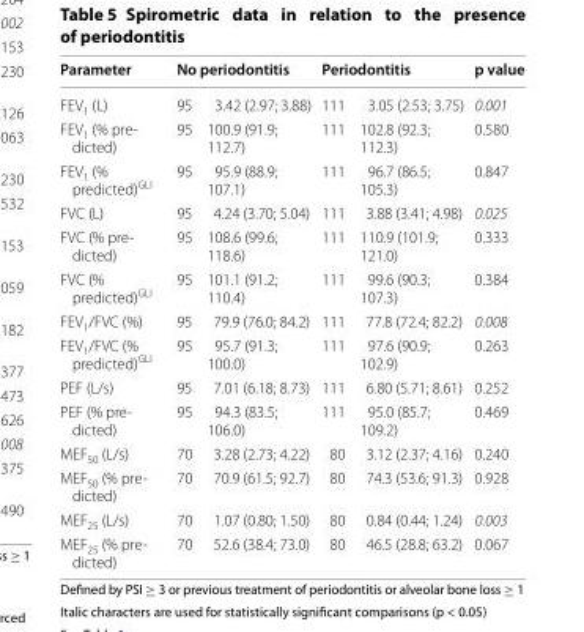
<table><thead><tr><td rowspan="2">Parameter FEV<sub>1</sub> (L)</td><td colspan="2">No periodontitis</td><td colspan="2">Periodontitis</td><td rowspan="2">p value 0.001</td></tr><tr><td>95</td><td>3.42 (2.97; 3.88)</td><td>111</td><td>3.05 (2.53; 3.75)</td></tr></thead><tbody><tr><td>FEV1 (% pre- dicted)</td><td>95</td><td>100.9 (91.9; 112.7)</td><td>111</td><td>102.8 (92.3; 112.3)</td><td>0.580</td></tr><tr><td>FEV<sub>1</sub> (% predicted)<sup>GLI</sup></td><td>95</td><td>95.9 (88.9; 107.1)</td><td>111</td><td>96.7 (86.5; 105.3)</td><td>0.847</td></tr><tr><td>FVC (L)</td><td>95</td><td>4.24 (3.70; 5.04)</td><td>111</td><td>3.88 (3.41; 4.98)</td><td>0.025</td></tr><tr><td>FVC (% pre- dicted)</td><td>95</td><td>108.6 (99.6; 118.6)</td><td>111</td><td>110.9 (101.9; 121.0)</td><td>0.333</td></tr><tr><td>FVC (% predicted)<sup>GLI</sup></td><td>95</td><td>101.1 (91.2; 110.4)</td><td>111</td><td>99.6 (90.3; 107.3)</td><td>0.384</td></tr><tr><td>FEV<sub>1</sub>/FVC (%)</td><td>95</td><td>79.9 (76.0; 84.2)</td><td>111</td><td>77.8 (72.4; 82.2)</td><td>0.008</td></tr><tr><td>FEV<sub>1</sub>/FVC (% predicted)<sup>GLI</sup></td><td>95</td><td>95.7 (91.3; 100.0)</td><td>111</td><td>97.6 (90.9; 102.9)</td><td>0.263</td></tr><tr><td>PEF (L/s)</td><td>95</td><td>7.01 (6.18; 8.73)</td><td>111</td><td>6.80 (5.71; 8.61)</td><td>0.252</td></tr><tr><td>PEF (% pre- dicted)</td><td>95</td><td>94.3 (83.5; 106.0)</td><td>111</td><td>95.0 (85.7; 109.2)</td><td>0.469</td></tr><tr><td>MEF<sub>50</sub> (L/s)</td><td>70</td><td>3.28 (2.73; 4.22)</td><td>80</td><td>3.12 (2.37; 4.16)</td><td>0.240</td></tr><tr><td>MEF50 (% pre- dicted)</td><td>70</td><td>70.9 (61.5; 92.7)</td><td>80</td><td>74.3 (53.6; 91.3)</td><td>0.928</td></tr><tr><td>MEF<sub>25</sub> (L/s)</td><td>70</td><td>1.07 (0.80; 1.50)</td><td>80</td><td>0.84 (0.44; 1.24)</td><td>0.003</td></tr><tr><td>MEF25 (% pre- dicted)</td><td>70</td><td>52.6 (38.4; 73.0)</td><td>80</td><td>46.5 (28.8; 63.2)</td><td>0.067</td></tr></tbody></table>